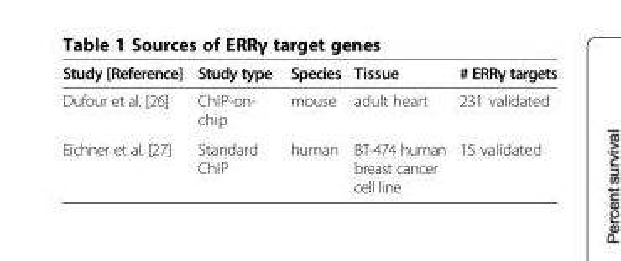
<table><thead><tr><td>Study [Reference]</td><td>Study type</td><td>Species</td><td>Tissue</td><td># ERRγ targets</td></tr></thead><tbody><tr><td>Dufour et al. [26]</td><td>ChIP-on- chip</td><td>mouse</td><td>adult heart</td><td>231 validated</td></tr><tr><td>Eichner et al. [27]</td><td>Standard ChIP</td><td>human</td><td>BT-474 human breast cancer cell line</td><td>15 validated</td></tr></tbody></table>